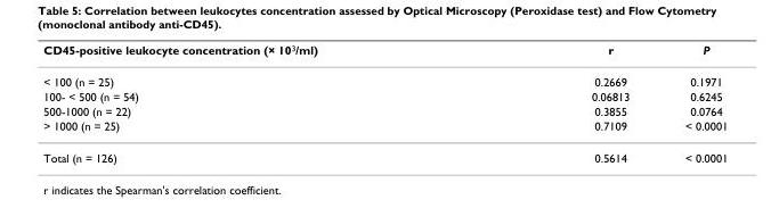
<table><thead><tr><td>CD45-positive leukocyte concentration (× 10<sup>3</sup>/ml)</td><td>r</td><td>P</td></tr></thead><tbody><tr><td>&lt; 100 (n = 25)</td><td>0.2669</td><td>0.1971</td></tr><tr><td>100- &lt; 500 (n = 54)</td><td>0.06813</td><td>0.6245</td></tr><tr><td>500-1000 (n = 22)</td><td>0.3855</td><td>0.0764</td></tr><tr><td>&gt; 1000 (n = 25)</td><td>0.7109</td><td>&lt; 0.0001</td></tr><tr><td>Total (n = 126)</td><td>0.5614</td><td>&lt; 0.0001</td></tr></tbody></table>